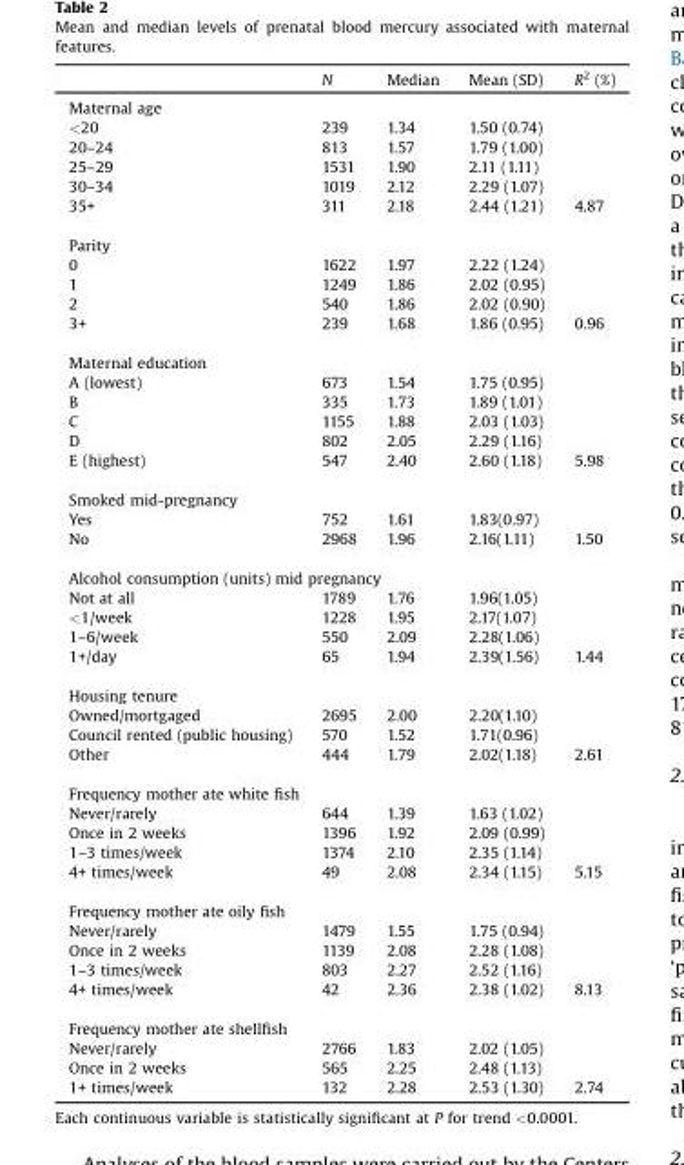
<table><thead><tr><td></td><td>N</td><td>Median</td><td>Mean (SD)</td><td>R<sup>2</sup> (%)</td></tr></thead><tbody><tr><td colspan="5">Maternal age</td></tr><tr><td>&lt;20</td><td>239</td><td>1.34</td><td>1.50 (0.74)</td><td></td></tr><tr><td>20–24</td><td>813</td><td>1.57</td><td>1.79 (1.00)</td><td></td></tr><tr><td>25–29</td><td>1531</td><td>1.90</td><td>2.11 (1.11)</td><td></td></tr><tr><td>30–34</td><td>1019</td><td>2.12</td><td>2.29 (1.07)</td><td></td></tr><tr><td>35+</td><td>311</td><td>2.18</td><td>2.44 (1.21)</td><td>4.87</td></tr><tr><td colspan="5">Parity</td></tr><tr><td>0</td><td>1622</td><td>1.97</td><td>2.22 (1.24)</td><td></td></tr><tr><td>1</td><td>1249</td><td>1.86</td><td>2.02 (0.95)</td><td></td></tr><tr><td>2</td><td>540</td><td>1.86</td><td>2.02 (0.90)</td><td></td></tr><tr><td>3+</td><td>239</td><td>1.68</td><td>1.86 (0.95)</td><td>0.96</td></tr><tr><td colspan="5">Maternal education</td></tr><tr><td>A (lowest)</td><td>673</td><td>1.54</td><td>1.75 (0.95)</td><td></td></tr><tr><td>B</td><td>335</td><td>1.73</td><td>1.89 (1.01)</td><td></td></tr><tr><td>C</td><td>1155</td><td>1.88</td><td>2.03 (1.03)</td><td></td></tr><tr><td>D</td><td>802</td><td>2.05</td><td>2.29 (1.16)</td><td></td></tr><tr><td>E (highest)</td><td>547</td><td>2.40</td><td>2.60 (1.18)</td><td>5.98</td></tr><tr><td colspan="5">Smoked mid-pregnancy</td></tr><tr><td>Yes</td><td>752</td><td>1.61</td><td>1.83(0.97)</td><td></td></tr><tr><td>No</td><td>2968</td><td>1.96</td><td>2.16(1.11)</td><td>1.50</td></tr><tr><td colspan="5">Alcohol consumption (units) mid pregnancy</td></tr><tr><td>Not at all</td><td>1789</td><td>1.76</td><td>1.96(1.05)</td><td></td></tr><tr><td>&lt;1/week</td><td>1228</td><td>1.95</td><td>2.17(1.07)</td><td></td></tr><tr><td>1–6/week</td><td>550</td><td>2.09</td><td>2.28(1.06)</td><td></td></tr><tr><td>1+/day</td><td>65</td><td>1.94</td><td>2.39(1.56)</td><td>1.44</td></tr><tr><td colspan="5">Housing tenure</td></tr><tr><td>Owned/mortgaged</td><td>2695</td><td>2.00</td><td>2.20(1.10)</td><td></td></tr><tr><td>Council rented (public housing)</td><td>570</td><td>1.52</td><td>1.71(0.96)</td><td></td></tr><tr><td>Other</td><td>444</td><td>1.79</td><td>2.02(1.18)</td><td>2.61</td></tr><tr><td colspan="5">Frequency mother ate white fish</td></tr><tr><td>Never/rarely</td><td>644</td><td>1.39</td><td>1.63 (1.02)</td><td></td></tr><tr><td>Once in 2 weeks</td><td>1396</td><td>1.92</td><td>2.09 (0.99)</td><td></td></tr><tr><td>1–3 times/week</td><td>1374</td><td>2.10</td><td>2.35 (1.14)</td><td></td></tr><tr><td>4+ times/week</td><td>49</td><td>2.08</td><td>2.34 (1.15)</td><td>5.15</td></tr><tr><td colspan="5">Frequency mother ate oily fish</td></tr><tr><td>Never/rarely</td><td>1479</td><td>1.55</td><td>1.75 (0.94)</td><td></td></tr><tr><td>Once in 2 weeks</td><td>1139</td><td>2.08</td><td>2.28 (1.08)</td><td></td></tr><tr><td>1–3 times/week</td><td>803</td><td>2.27</td><td>2.52 (1.16)</td><td></td></tr><tr><td>4+ times/week</td><td>42</td><td>2.36</td><td>2.38 (1.02)</td><td>8.13</td></tr><tr><td colspan="5">Frequency mother ate shellfish</td></tr><tr><td>Never/rarely</td><td>2766</td><td>1.83</td><td>2.02 (1.05)</td><td></td></tr><tr><td>Once in 2 weeks</td><td>565</td><td>2.25</td><td>2.48 (1.13)</td><td></td></tr><tr><td>1+ times/week</td><td>132</td><td>2.28</td><td>2.53 (1.30)</td><td>2.74</td></tr></tbody></table>